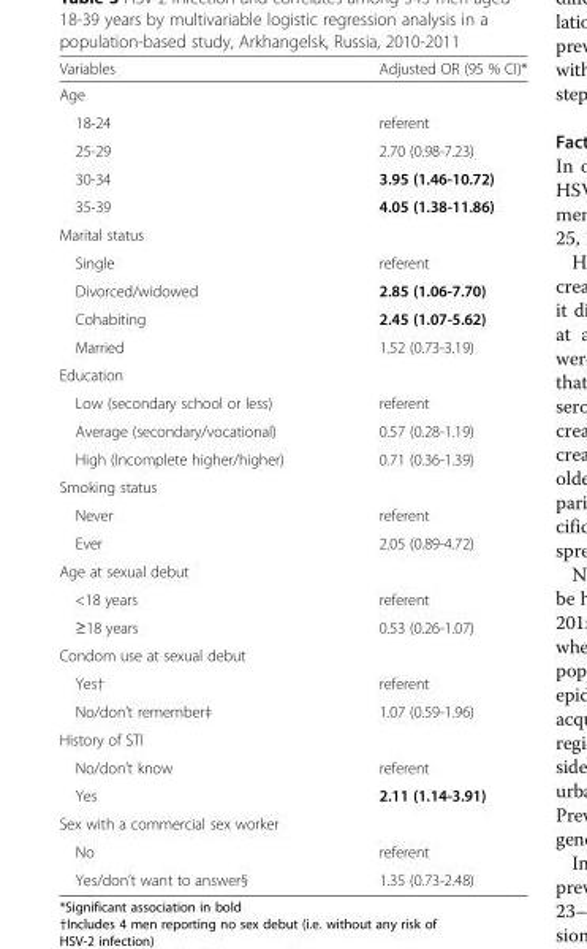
<table><thead><tr><td>Variables</td><td>Adjusted OR (95 % CI)*</td></tr></thead><tbody><tr><td colspan="2">Age</td></tr><tr><td>18-24</td><td>referent</td></tr><tr><td>25-29</td><td>2.70 (0.98-7.23)</td></tr><tr><td>30-34</td><td>3.95 (1.46-10.72)</td></tr><tr><td>35-39</td><td>4.05 (1.38-11.86)</td></tr><tr><td colspan="2">Marital status</td></tr><tr><td>Single</td><td>referent</td></tr><tr><td>Divorced/widowed</td><td>2.85 (1.06-7.70)</td></tr><tr><td>Cohabiting</td><td>2.45 (1.07-5.62)</td></tr><tr><td>Married</td><td>1.52 (0.73-3.19)</td></tr><tr><td colspan="2">Education</td></tr><tr><td>Low (secondary school or less)</td><td>referent</td></tr><tr><td>Average (secondary/vocational)</td><td>0.57 (0.28-1.19)</td></tr><tr><td>High (Incomplete higher/higher)</td><td>0.71 (0.36-1.39)</td></tr><tr><td colspan="2">Smoking status</td></tr><tr><td>Never</td><td>referent</td></tr><tr><td>Ever</td><td>2.05 (0.89-4.72)</td></tr><tr><td colspan="2">Age at sexual debut</td></tr><tr><td>&lt;18 years</td><td>referent</td></tr><tr><td>≥18 years</td><td>0.53 (0.26-1.07)</td></tr><tr><td colspan="2">Condom use at sexual debut</td></tr><tr><td>Yes†</td><td>referent</td></tr><tr><td>No/don’t remember‡</td><td>1.07 (0.59-1.96)</td></tr><tr><td colspan="2">History of STI</td></tr><tr><td>No/don’t know</td><td>referent</td></tr><tr><td>Yes</td><td>2.11 (1.14-3.91)</td></tr><tr><td colspan="2">Sex with a commercial sex worker</td></tr><tr><td>No</td><td>referent</td></tr><tr><td>Yes/don’t want to answer§</td><td>1.35 (0.73-2.48)</td></tr></tbody></table>